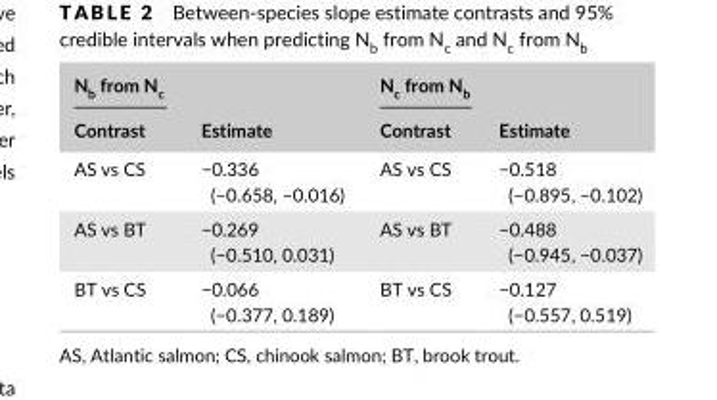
<table><thead><tr><td rowspan="2">N<sub>b</sub> from N<sub>c</sub> Contrast</td><td rowspan="2">Estimate</td><td rowspan="2">N<sub>c</sub> from N<sub>b</sub> Contrast</td><td rowspan="2">Estimate</td></tr><tr></tr></thead><tbody><tr><td>AS vs CS</td><td>−0.336 (−0.658, −0.016)</td><td>AS vs CS</td><td>−0.518 (−0.895, −0.102)</td></tr><tr><td>AS vs BT</td><td>−0.269 (−0.510, 0.031)</td><td>AS vs BT</td><td>−0.488 (−0.945, −0.037)</td></tr><tr><td>BT vs CS</td><td>−0.066 (−0.377, 0.189)</td><td>BT vs CS</td><td>−0.127 (−0.557, 0.519)</td></tr></tbody></table>